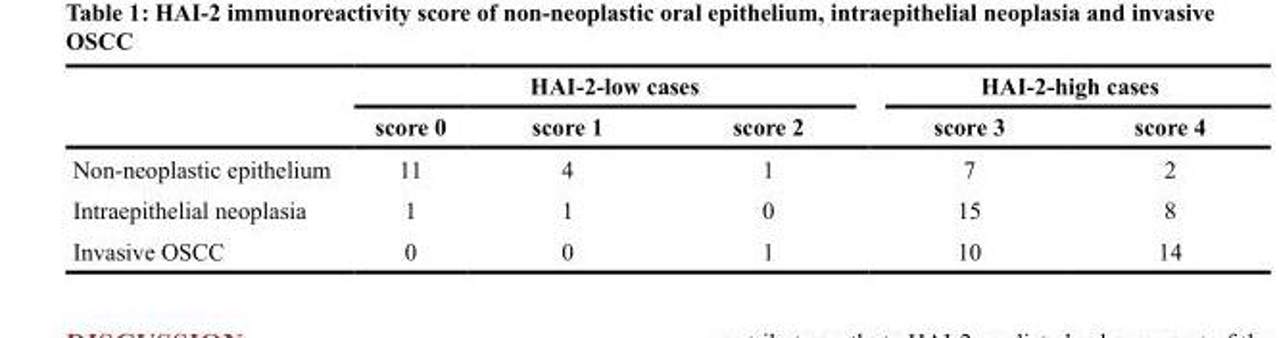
<table><thead><tr><td rowspan="2"></td><td colspan="3">HAI-2-low cases</td><td colspan="2">HAI-2-high cases</td></tr><tr><td>score 0</td><td>score 1</td><td>score 2</td><td>score 3</td><td>score 4</td></tr></thead><tbody><tr><td>Non-neoplastic epithelium</td><td>11</td><td>4</td><td>1</td><td>7</td><td>2</td></tr><tr><td>Intraepithelial neoplasia</td><td>1</td><td>1</td><td>0</td><td>15</td><td>8</td></tr><tr><td>Invasive OSCC</td><td>0</td><td>0</td><td>1</td><td>10</td><td>14</td></tr></tbody></table>